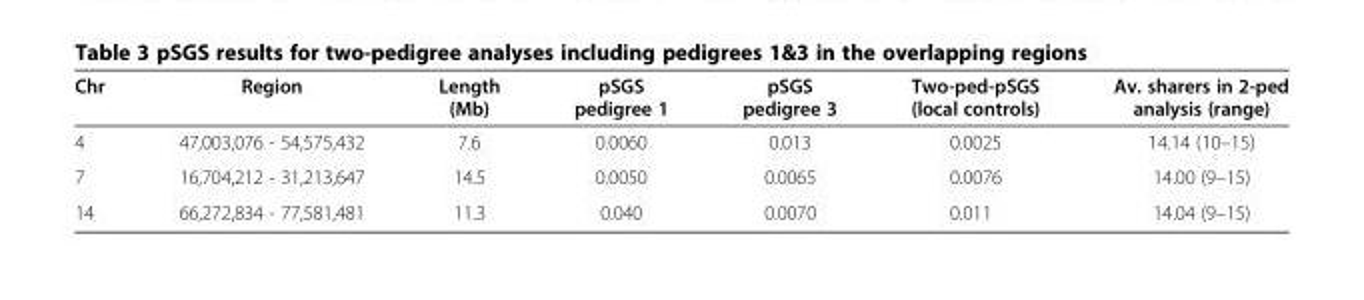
<table><thead><tr><td>Chr</td><td>Region</td><td>Length (Mb)</td><td>pSGS pedigree 1</td><td>pSGS pedigree 3</td><td>Two-ped-pSGS (local controls)</td><td>Av. sharers in 2-ped analysis (range)</td></tr></thead><tbody><tr><td>4</td><td>47,003,076 - 54,575,432</td><td>7.6</td><td>0.0060</td><td>0.013</td><td>0.0025</td><td>14.14 (10–15)</td></tr><tr><td>7</td><td>16,704,212 - 31,213,647</td><td>14.5</td><td>0.0050</td><td>0.0065</td><td>0.0076</td><td>14.00 (9–15)</td></tr><tr><td>14</td><td>66,272,834 - 77,581,481</td><td>11.3</td><td>0.040</td><td>0.0070</td><td>0.011</td><td>14.04 (9–15)</td></tr></tbody></table>